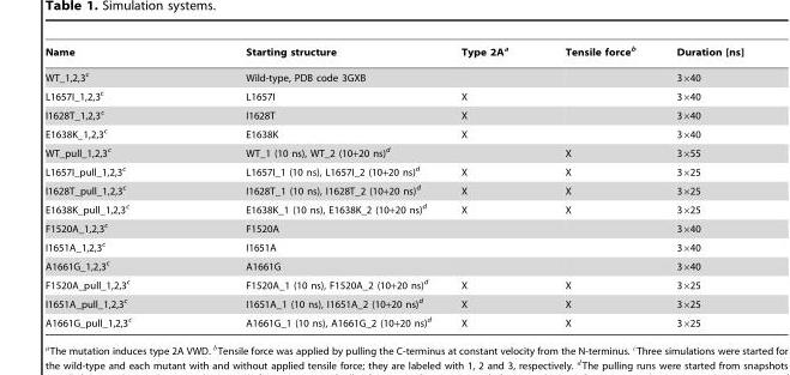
<table><thead><tr><td>Name</td><td>Starting structure</td><td>Type 2A<sup>a</sup></td><td>Tensile force<sup>b</sup></td><td>Duration [ns]</td></tr></thead><tbody><tr><td>WT_1,2,3<sup>c</sup></td><td>Wild-type, PDB code 3GXB</td><td></td><td></td><td>3×40</td></tr><tr><td>L1657I_1,2,3<sup>c</sup></td><td>L1657I</td><td>X</td><td></td><td>3×40</td></tr><tr><td>I1628T_1,2,3<sup>c</sup></td><td>I1628T</td><td>X</td><td></td><td>3×40</td></tr><tr><td>E1638K_1,2,3<sup>c</sup></td><td>E1638K</td><td>X</td><td></td><td>3×40</td></tr><tr><td>WT_pull_1,2,3<sup>c</sup></td><td>WT_1 (10 ns), WT_2 (10+20 ns)<sup>d</sup></td><td></td><td>X</td><td>3×55</td></tr><tr><td>L1657I_pull_1,2,3<sup>c</sup></td><td>L1657I_1 (10 ns), L1657I_2 (10+20 ns)<sup>d</sup></td><td>X</td><td>X</td><td>3×25</td></tr><tr><td>I1628T_pull_1,2,3<sup>c</sup></td><td>I1628T_1 (10 ns), I1628T_2 (10+20 ns)<sup>d</sup></td><td>X</td><td>X</td><td>3×25</td></tr><tr><td>E1638K_pull_1,2,3<sup>c</sup></td><td>E1638K_1 (10 ns), E1638K_2 (10+20 ns)<sup>d</sup></td><td>X</td><td>X</td><td>3×25</td></tr><tr><td>F1520A_1,2,3<sup>c</sup></td><td>F1520A</td><td></td><td></td><td>3×40</td></tr><tr><td>I1651A_1,2,3<sup>c</sup></td><td>I1651A</td><td></td><td></td><td>3×40</td></tr><tr><td>A1661G_1,2,3<sup>c</sup></td><td>A1661G</td><td></td><td></td><td>3×40</td></tr><tr><td>F1520A_pull_1,2,3<sup>c</sup></td><td>F1520A_1 (10 ns), F1520A_2 (10+20 ns)<sup>d</sup></td><td>X</td><td>X</td><td>3×25</td></tr><tr><td>I1651A_pull_1,2,3<sup>c</sup></td><td>I1651A_1 (10 ns), I1651A_2 (10+20 ns)<sup>d</sup></td><td>X</td><td>X</td><td>3×25</td></tr><tr><td>A1661G_pull_1,2,3<sup>c</sup></td><td>A1661G_1 (10 ns), A1661G_2 (10+20 ns)<sup>d</sup></td><td>X</td><td>X</td><td>3×25</td></tr></tbody></table>